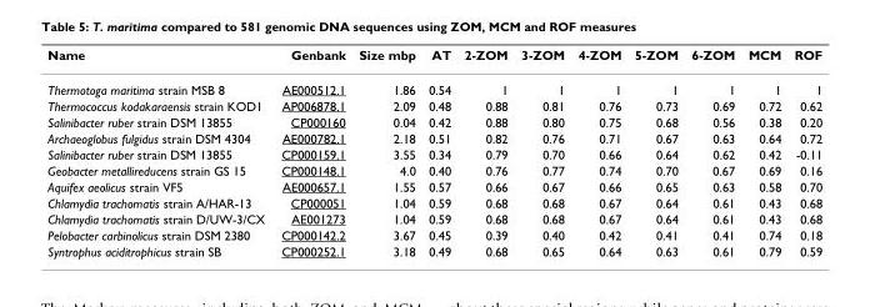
<table><thead><tr><td>Name</td><td>Genbank</td><td>Size mbp</td><td>AT</td><td>2-ZOM</td><td>3-ZOM</td><td>4-ZOM</td><td>5-ZOM</td><td>6-ZOM</td><td>MCM</td><td>ROF</td></tr></thead><tbody><tr><td>Thermotoga maritima strain MSB 8</td><td>AE000512.1</td><td>1.86</td><td>0.54</td><td>1</td><td>1</td><td>1</td><td>1</td><td>1</td><td>1</td><td>1</td></tr><tr><td>Thermococcus kodakaraensis strain KOD1</td><td>AP006878.1</td><td>2.09</td><td>0.48</td><td>0.88</td><td>0.81</td><td>0.76</td><td>0.73</td><td>0.69</td><td>0.72</td><td>0.62</td></tr><tr><td>Salinibacter ruber strain DSM 13855</td><td>CP000160</td><td>0.04</td><td>0.42</td><td>0.88</td><td>0.80</td><td>0.75</td><td>0.68</td><td>0.56</td><td>0.38</td><td>0.20</td></tr><tr><td>Archaeoglobus fulgidus strain DSM 4304</td><td>AE000782.1</td><td>2.18</td><td>0.51</td><td>0.82</td><td>0.76</td><td>0.71</td><td>0.67</td><td>0.63</td><td>0.64</td><td>0.72</td></tr><tr><td>Salinibacter ruber strain DSM 13855</td><td>CP000159.1</td><td>3.55</td><td>0.34</td><td>0.79</td><td>0.70</td><td>0.66</td><td>0.64</td><td>0.62</td><td>0.42</td><td>-0.11</td></tr><tr><td>Geobacter metallireducens strain GS 15</td><td>CP000148.1</td><td>4.0</td><td>0.40</td><td>0.76</td><td>0.77</td><td>0.74</td><td>0.70</td><td>0.67</td><td>0.69</td><td>0.16</td></tr><tr><td>Aquifex aeolicus strain VF5</td><td>AE000657.1</td><td>1.55</td><td>0.57</td><td>0.66</td><td>0.67</td><td>0.66</td><td>0.65</td><td>0.63</td><td>0.58</td><td>0.70</td></tr><tr><td>Chlamydia trachomatis strain A/HAR-13</td><td>CP000051</td><td>1.04</td><td>0.59</td><td>0.68</td><td>0.68</td><td>0.67</td><td>0.64</td><td>0.61</td><td>0.43</td><td>0.68</td></tr><tr><td>Chlamydia trachomatis strain D/UW-3/CX</td><td>AE001273</td><td>1.04</td><td>0.59</td><td>0.68</td><td>0.68</td><td>0.67</td><td>0.64</td><td>0.61</td><td>0.43</td><td>0.68</td></tr><tr><td>Pelobacter carbinolicus strain DSM 2380</td><td>CP000142.2</td><td>3.67</td><td>0.45</td><td>0.39</td><td>0.40</td><td>0.42</td><td>0.41</td><td>0.41</td><td>0.74</td><td>0.18</td></tr><tr><td>Syntrophus aciditrophicus strain SB</td><td>CP000252.1</td><td>3.18</td><td>0.49</td><td>0.68</td><td>0.65</td><td>0.64</td><td>0.63</td><td>0.61</td><td>0.79</td><td>0.59</td></tr></tbody></table>